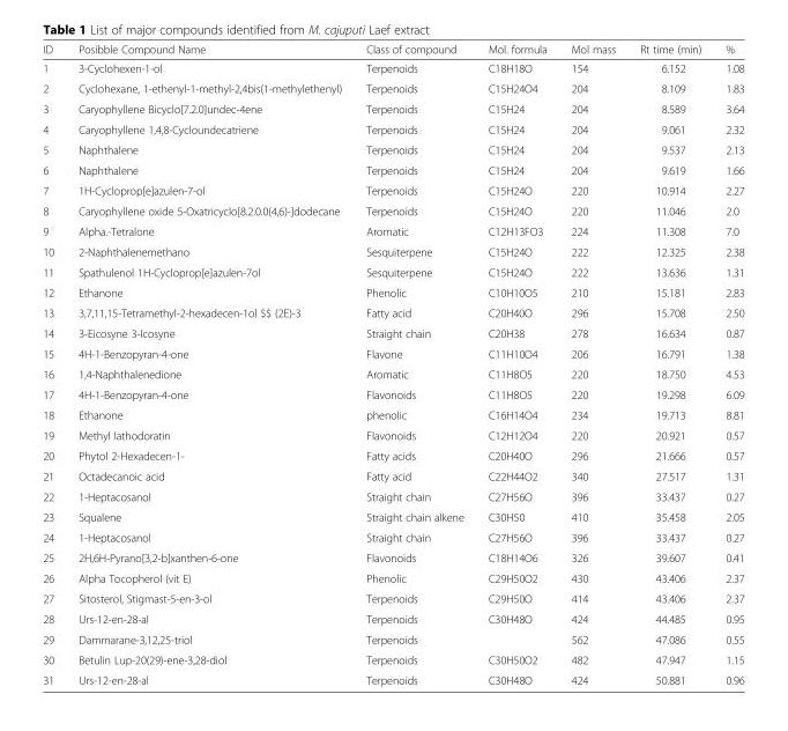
<table><thead><tr><td>ID</td><td>Posibble Compound Name</td><td>Class of compound</td><td>Mol. formula</td><td>Mol mass</td><td>Rt time (min)</td><td>%</td></tr></thead><tbody><tr><td>1</td><td>3-Cyclohexen-1-ol</td><td>Terpenoids</td><td>C18H18O</td><td>154</td><td>6.152</td><td>1.08</td></tr><tr><td>2</td><td>Cyclohexane, 1-ethenyl-1-methyl-2,4bis(1-methylethenyl)</td><td>Terpenoids</td><td>C15H24O4</td><td>204</td><td>8.109</td><td>1.83</td></tr><tr><td>3</td><td>Caryophyllene Bicyclo[7.2.0]undec-4ene</td><td>Terpenoids</td><td>C15H24</td><td>204</td><td>8.589</td><td>3.64</td></tr><tr><td>4</td><td>Caryophyllene 1,4,8-Cycloundecatriene</td><td>Terpenoids</td><td>C15H24</td><td>204</td><td>9.061</td><td>2.32</td></tr><tr><td>5</td><td>Naphthalene</td><td>Terpenoids</td><td>C15H24</td><td>204</td><td>9.537</td><td>2.13</td></tr><tr><td>6</td><td>Naphthalene</td><td>Terpenoids</td><td>C15H24</td><td>204</td><td>9.619</td><td>1.66</td></tr><tr><td>7</td><td>1H-Cycloprop[e]azulen-7-ol</td><td>Terpenoids</td><td>C15H24O</td><td>220</td><td>10.914</td><td>2.27</td></tr><tr><td>8</td><td>Caryophyllene oxide 5-Oxatricyclo[8.2.0.0(4,6)-]dodecane</td><td>Terpenoids</td><td>C15H24O</td><td>220</td><td>11.046</td><td>2.0</td></tr><tr><td>9</td><td>Alpha.-Tetralone</td><td>Aromatic</td><td>C12H13FO3</td><td>224</td><td>11.308</td><td>7.0</td></tr><tr><td>10</td><td>2-Naphthalenemethano</td><td>Sesquiterpene</td><td>C15H24O</td><td>222</td><td>12.325</td><td>2.38</td></tr><tr><td>11</td><td>Spathulenol 1H-Cycloprop[e]azulen-7ol</td><td>Sesquiterpene</td><td>C15H24O</td><td>222</td><td>13.636</td><td>1.31</td></tr><tr><td>12</td><td>Ethanone</td><td>Phenolic</td><td>C10H10O5</td><td>210</td><td>15.181</td><td>2.83</td></tr><tr><td>13</td><td>3,7,11,15-Tetramethyl-2-hexadecen-1ol $$ (2E)-3</td><td>Fatty acid</td><td>C20H40O</td><td>296</td><td>15.708</td><td>2.50</td></tr><tr><td>14</td><td>3-Eicosyne 3-Icosyne</td><td>Straight chain</td><td>C20H38</td><td>278</td><td>16.634</td><td>0.87</td></tr><tr><td>15</td><td>4H-1-Benzopyran-4-one</td><td>Flavone</td><td>C11H10O4</td><td>206</td><td>16.791</td><td>1.38</td></tr><tr><td>16</td><td>1,4-Naphthalenedione</td><td>Aromatic</td><td>C11H8O5</td><td>220</td><td>18.750</td><td>4.53</td></tr><tr><td>17</td><td>4H-1-Benzopyran-4-one</td><td>Flavonoids</td><td>C11H8O5</td><td>220</td><td>19.298</td><td>6.09</td></tr><tr><td>18</td><td>Ethanone</td><td>phenolic</td><td>C16H14O4</td><td>234</td><td>19.713</td><td>8.81</td></tr><tr><td>19</td><td>Methyl lathodoratin</td><td>Flavonoids</td><td>C12H12O4</td><td>220</td><td>20.921</td><td>0.57</td></tr><tr><td>20</td><td>Phytol 2-Hexadecen-1-</td><td>Fatty acids</td><td>C20H40O</td><td>296</td><td>21.666</td><td>0.57</td></tr><tr><td>21</td><td>Octadecanoic acid</td><td>Fatty acid</td><td>C22H44O2</td><td>340</td><td>27.517</td><td>1.31</td></tr><tr><td>22</td><td>1-Heptacosanol</td><td>Straight chain</td><td>C27H56O</td><td>396</td><td>33.437</td><td>0.27</td></tr><tr><td>23</td><td>Squalene</td><td>Straight chain alkene</td><td>C30H50</td><td>410</td><td>35.458</td><td>2.05</td></tr><tr><td>24</td><td>1-Heptacosanol</td><td>Straight chain</td><td>C27H56O</td><td>396</td><td>33.437</td><td>0.27</td></tr><tr><td>25</td><td>2H,6H-Pyrano[3,2-b]xanthen-6-one</td><td>Flavonoids</td><td>C18H14O6</td><td>326</td><td>39.607</td><td>0.41</td></tr><tr><td>26</td><td>Alpha Tocopherol (vit E)</td><td>Phenolic</td><td>C29H50O2</td><td>430</td><td>43.406</td><td>2.37</td></tr><tr><td>27</td><td>Sitosterol, Stigmast-5-en-3-ol</td><td>Terpenoids</td><td>C29H50O</td><td>414</td><td>43.406</td><td>2.37</td></tr><tr><td>28</td><td>Urs-12-en-28-al</td><td>Terpenoids</td><td>C30H48O</td><td>424</td><td>44.485</td><td>0.95</td></tr><tr><td>29</td><td>Dammarane-3,12,25-triol</td><td>Terpenoids</td><td></td><td>562</td><td>47.086</td><td>0.55</td></tr><tr><td>30</td><td>Betulin Lup-20(29)-ene-3,28-diol</td><td>Terpenoids</td><td>C30H50O2</td><td>482</td><td>47.947</td><td>1.15</td></tr><tr><td>31</td><td>Urs-12-en-28-al</td><td>Terpenoids</td><td>C30H48O</td><td>424</td><td>50.881</td><td>0.96</td></tr></tbody></table>